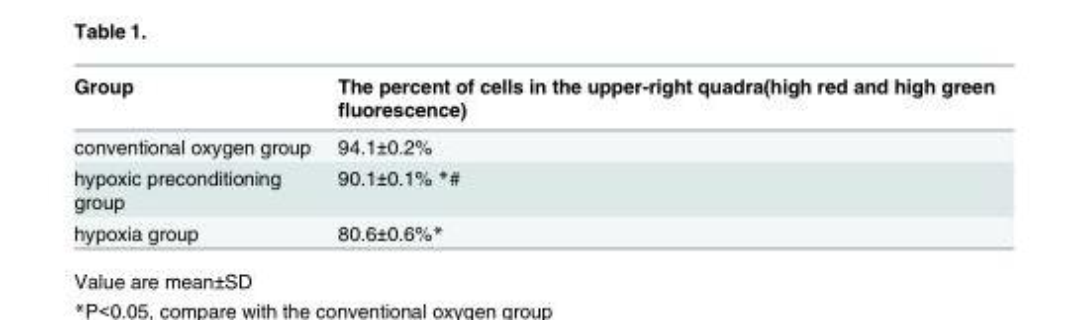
<table><thead><tr><td>Group</td><td>The percent of cells in the upper-right quadra(high red and high green fluorescence)</td></tr></thead><tbody><tr><td>conventional oxygen group</td><td>94.1±0.2%</td></tr><tr><td>hypoxic preconditioning group</td><td>90.1±0.1% *#</td></tr><tr><td>hypoxia group</td><td>80.6±0.6%*</td></tr></tbody></table>